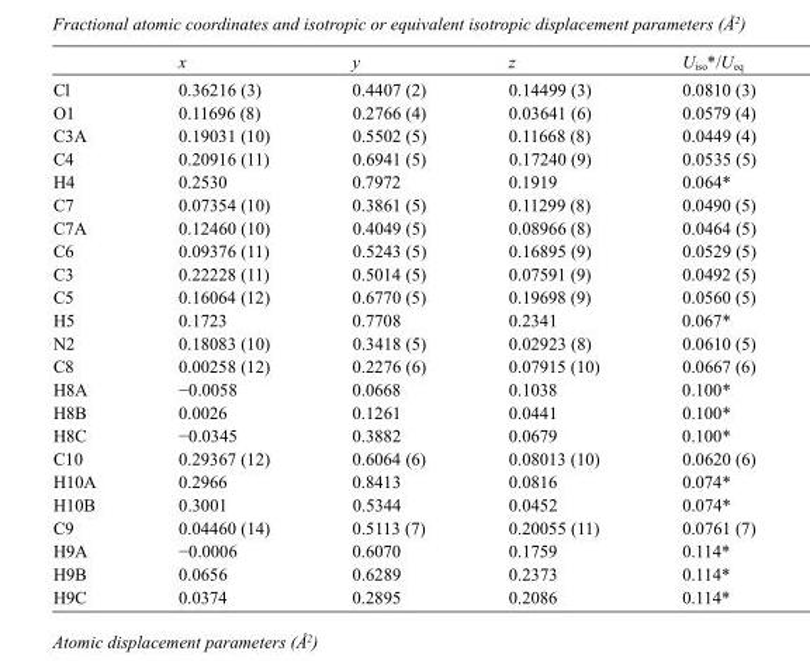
<table><thead><tr><td></td><td>x</td><td>y</td><td>z</td><td>U<sub>iso</sub>*/U<sub>eq</sub></td></tr></thead><tbody><tr><td>Cl</td><td>0.36216 (3)</td><td>0.4407 (2)</td><td>0.14499 (3)</td><td>0.0810 (3)</td></tr><tr><td>O1</td><td>0.11696 (8)</td><td>0.2766 (4)</td><td>0.03641 (6)</td><td>0.0579 (4)</td></tr><tr><td>C3A</td><td>0.19031 (10)</td><td>0.5502 (5)</td><td>0.11668 (8)</td><td>0.0449 (4)</td></tr><tr><td>C4</td><td>0.20916 (11)</td><td>0.6941 (5)</td><td>0.17240 (9)</td><td>0.0535 (5)</td></tr><tr><td>H4</td><td>0.2530</td><td>0.7972</td><td>0.1919</td><td>0.064*</td></tr><tr><td>C7</td><td>0.07354 (10)</td><td>0.3861 (5)</td><td>0.11299 (8)</td><td>0.0490 (5)</td></tr><tr><td>C7A</td><td>0.12460 (10)</td><td>0.4049 (5)</td><td>0.08966 (8)</td><td>0.0464 (5)</td></tr><tr><td>C6</td><td>0.09376 (11)</td><td>0.5243 (5)</td><td>0.16895 (9)</td><td>0.0529 (5)</td></tr><tr><td>C3</td><td>0.22228 (11)</td><td>0.5014 (5)</td><td>0.07591 (9)</td><td>0.0492 (5)</td></tr><tr><td>C5</td><td>0.16064 (12)</td><td>0.6770 (5)</td><td>0.19698 (9)</td><td>0.0560 (5)</td></tr><tr><td>H5</td><td>0.1723</td><td>0.7708</td><td>0.2341</td><td>0.067*</td></tr><tr><td>N2</td><td>0.18083 (10)</td><td>0.3418 (5)</td><td>0.02923 (8)</td><td>0.0610 (5)</td></tr><tr><td>C8</td><td>0.00258 (12)</td><td>0.2276 (6)</td><td>0.07915 (10)</td><td>0.0667 (6)</td></tr><tr><td>H8A</td><td>−0.0058</td><td>0.0668</td><td>0.1038</td><td>0.100*</td></tr><tr><td>H8B</td><td>0.0026</td><td>0.1261</td><td>0.0441</td><td>0.100*</td></tr><tr><td>H8C</td><td>−0.0345</td><td>0.3882</td><td>0.0679</td><td>0.100*</td></tr><tr><td>C10</td><td>0.29367 (12)</td><td>0.6064 (6)</td><td>0.08013 (10)</td><td>0.0620 (6)</td></tr><tr><td>H10A</td><td>0.2966</td><td>0.8413</td><td>0.0816</td><td>0.074*</td></tr><tr><td>H10B</td><td>0.3001</td><td>0.5344</td><td>0.0452</td><td>0.074*</td></tr><tr><td>C9</td><td>0.04460 (14)</td><td>0.5113 (7)</td><td>0.20055 (11)</td><td>0.0761 (7)</td></tr><tr><td>H9A</td><td>−0.0006</td><td>0.6070</td><td>0.1759</td><td>0.114*</td></tr><tr><td>H9B</td><td>0.0656</td><td>0.6289</td><td>0.2373</td><td>0.114*</td></tr><tr><td>H9C</td><td>0.0374</td><td>0.2895</td><td>0.2086</td><td>0.114*</td></tr></tbody></table>